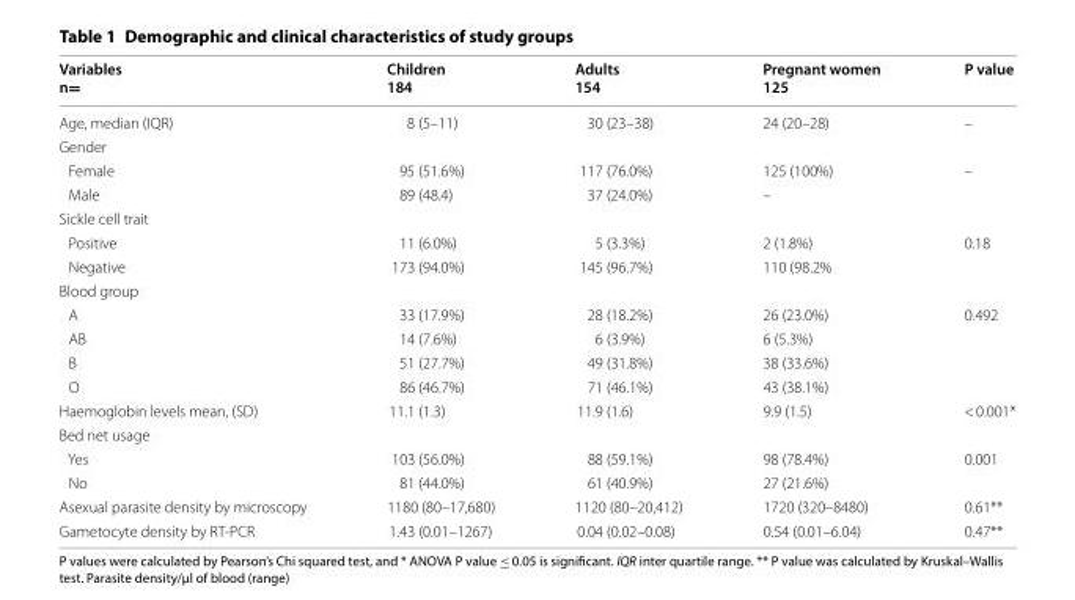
<table><thead><tr><td>Variables n=</td><td>Children 184</td><td>Adults 154</td><td>Pregnant women 125</td><td>P value</td></tr></thead><tbody><tr><td>Age, median (IQR)</td><td>8 (5–11)</td><td>30 (23–38)</td><td>24 (20–28)</td><td>–</td></tr><tr><td colspan="5">Gender</td></tr><tr><td>Female</td><td>95 (51.6%)</td><td>117 (76.0%)</td><td>125 (100%)</td><td>–</td></tr><tr><td>Male</td><td>89 (48.4)</td><td>37 (24.0%)</td><td>–</td><td></td></tr><tr><td colspan="5">Sickle cell trait</td></tr><tr><td>Positive</td><td>11 (6.0%)</td><td>5 (3.3%)</td><td>2 (1.8%)</td><td>0.18</td></tr><tr><td>Negative</td><td>173 (94.0%)</td><td>145 (96.7%)</td><td>110 (98.2%</td><td></td></tr><tr><td colspan="5">Blood group</td></tr><tr><td>A</td><td>33 (17.9%)</td><td>28 (18.2%)</td><td>26 (23.0%)</td><td>0.492</td></tr><tr><td>AB</td><td>14 (7.6%)</td><td>6 (3.9%)</td><td>6 (5.3%)</td><td></td></tr><tr><td>B</td><td>51 (27.7%)</td><td>49 (31.8%)</td><td>38 (33.6%)</td><td></td></tr><tr><td>O</td><td>86 (46.7%)</td><td>71 (46.1%)</td><td>43 (38.1%)</td><td></td></tr><tr><td>Haemoglobin levels mean, (SD)</td><td>11.1 (1.3)</td><td>11.9 (1.6)</td><td>9.9 (1.5)</td><td>&lt; 0.001*</td></tr><tr><td colspan="5">Bed net usage</td></tr><tr><td>Yes</td><td>103 (56.0%)</td><td>88 (59.1%)</td><td>98 (78.4%)</td><td>0.001</td></tr><tr><td>No</td><td>81 (44.0%)</td><td>61 (40.9%)</td><td>27 (21.6%)</td><td></td></tr><tr><td>Asexual parasite density by microscopy</td><td>1180 (80–17,680)</td><td>1120 (80–20,412)</td><td>1720 (320–8480)</td><td>0.61**</td></tr><tr><td>Gametocyte density by RT‑PCR</td><td>1.43 (0.01–1267)</td><td>0.04 (0.02–0.08)</td><td>0.54 (0.01–6.04)</td><td>0.47**</td></tr></tbody></table>